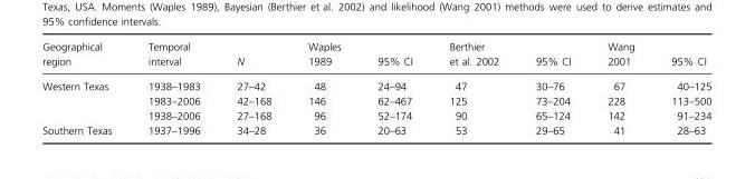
<table><thead><tr><td>Geographical region</td><td>Temporal interval</td><td>N</td><td>Waples 1989</td><td>95% CI</td><td>Berthier et al. 2002</td><td>95% CI</td><td>Wang 2001</td><td>95% CI</td></tr></thead><tbody><tr><td rowspan="3">Western Texas</td><td>1938–1983</td><td>27–42</td><td>48</td><td>24–94</td><td>47</td><td>30–76</td><td>67</td><td>40–125</td></tr><tr><td>1983–2006</td><td>42–168</td><td>146</td><td>62–467</td><td>125</td><td>73–204</td><td>228</td><td>113–500</td></tr><tr><td>1938–2006</td><td>27–168</td><td>96</td><td>52–174</td><td>90</td><td>65–124</td><td>142</td><td>91–234</td></tr><tr><td>Southern Texas</td><td>1937–1996</td><td>34–28</td><td>36</td><td>20–63</td><td>53</td><td>29–65</td><td>41</td><td>28–63</td></tr></tbody></table>